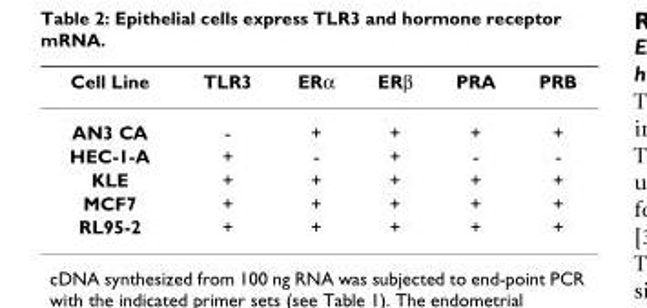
<table><thead><tr><td>Cell Line</td><td>TLR3</td><td>ERα</td><td>ERβ</td><td>PRA</td><td>PRB</td></tr></thead><tbody><tr><td>AN3 CA</td><td>-</td><td>+</td><td>+</td><td>+</td><td>+</td></tr><tr><td>HEC-1-A</td><td>+</td><td>-</td><td>+</td><td>-</td><td>-</td></tr><tr><td>KLE</td><td>+</td><td>+</td><td>+</td><td>+</td><td>+</td></tr><tr><td>MCF7</td><td>+</td><td>+</td><td>+</td><td>+</td><td>+</td></tr><tr><td>RL95-2</td><td>+</td><td>+</td><td>+</td><td>+</td><td>+</td></tr></tbody></table>